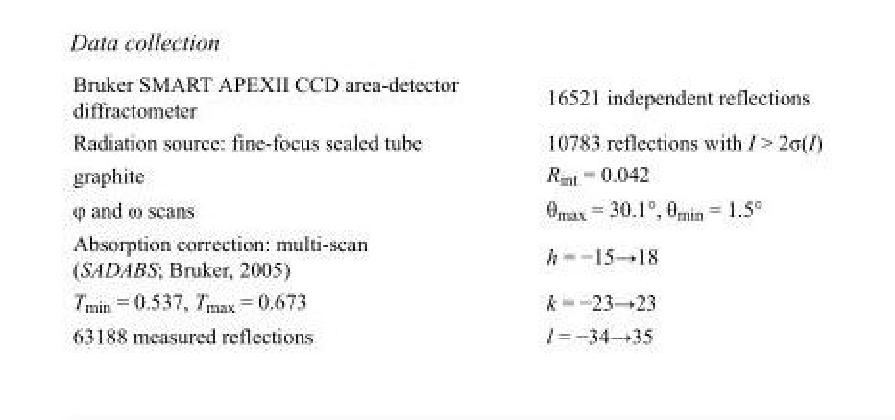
<table><tbody><tr><td>Bruker SMART APEXII CCD area-detector diffractometer</td><td>16521 independent reflections</td></tr><tr><td>Radiation source: fine-focus sealed tube</td><td>10783 reflections with I &gt; 2σ(I)</td></tr><tr><td>graphite</td><td>R<sub>int</sub> = 0.042</td></tr><tr><td>φ and ω scans</td><td>θ<sub>max</sub> = 30.1°, θ<sub>min</sub> = 1.5°</td></tr><tr><td>Absorption correction: multi-scan (SADABS; Bruker, 2005)</td><td>h = −15→18</td></tr><tr><td>T<sub>min</sub> = 0.537, T<sub>max</sub> = 0.673</td><td>k = −23→23</td></tr><tr><td>63188 measured reflections</td><td>l = −34→35</td></tr></tbody></table>